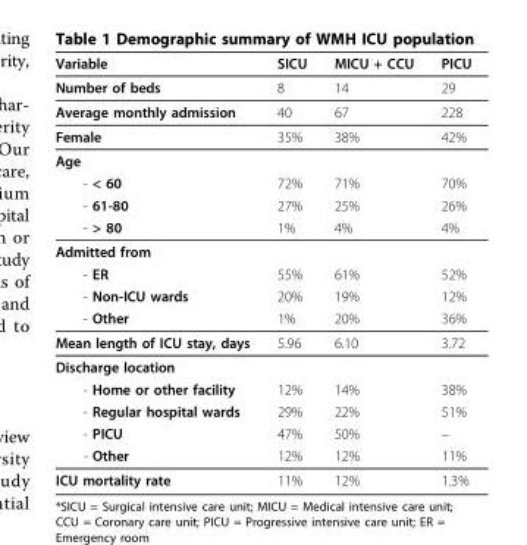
<table><thead><tr><td>Variable</td><td>SICU</td><td>MICU + CCU</td><td>PICU</td></tr></thead><tbody><tr><td>Number of beds</td><td>8</td><td>14</td><td>29</td></tr><tr><td>Average monthly admission</td><td>40</td><td>67</td><td>228</td></tr><tr><td>Female</td><td>35%</td><td>38%</td><td>42%</td></tr><tr><td colspan="4">Age</td></tr><tr><td>- &lt; 60</td><td>72%</td><td>71%</td><td>70%</td></tr><tr><td>- 61-80</td><td>27%</td><td>25%</td><td>26%</td></tr><tr><td>- &gt; 80</td><td>1%</td><td>4%</td><td>4%</td></tr><tr><td colspan="4">Admitted from</td></tr><tr><td>- ER</td><td>55%</td><td>61%</td><td>52%</td></tr><tr><td>- Non-ICU wards</td><td>20%</td><td>19%</td><td>12%</td></tr><tr><td>- Other</td><td>1%</td><td>20%</td><td>36%</td></tr><tr><td>Mean length of ICU stay, days</td><td>5.96</td><td>6.10</td><td>3.72</td></tr><tr><td colspan="4">Discharge location</td></tr><tr><td>- Home or other facility</td><td>12%</td><td>14%</td><td>38%</td></tr><tr><td>- Regular hospital wards</td><td>29%</td><td>22%</td><td>51%</td></tr><tr><td>- PICU</td><td>47%</td><td>50%</td><td>–</td></tr><tr><td>- Other</td><td>12%</td><td>12%</td><td>11%</td></tr><tr><td>ICU mortality rate</td><td>11%</td><td>12%</td><td>1.3%</td></tr></tbody></table>